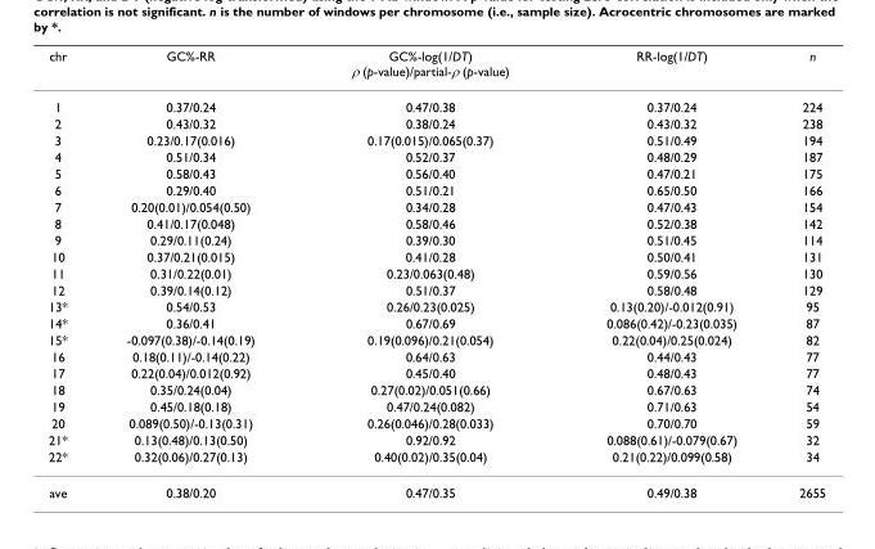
<table><thead><tr><td>chr</td><td>GC%-RR</td><td>GC%-log(1/DT) ρ (p-value)/partial-ρ (p-value)</td><td>RR-log(1/DT)</td><td>n</td></tr></thead><tbody><tr><td>1</td><td>0.37/0.24</td><td>0.47/0.38</td><td>0.37/0.24</td><td>224</td></tr><tr><td>2</td><td>0.43/0.32</td><td>0.38/0.24</td><td>0.43/0.32</td><td>238</td></tr><tr><td>3</td><td>0.23/0.17(0.016)</td><td>0.17(0.015)/0.065(0.37)</td><td>0.51/0.49</td><td>194</td></tr><tr><td>4</td><td>0.51/0.34</td><td>0.52/0.37</td><td>0.48/0.29</td><td>187</td></tr><tr><td>5</td><td>0.58/0.43</td><td>0.56/0.40</td><td>0.47/0.21</td><td>175</td></tr><tr><td>6</td><td>0.29/0.40</td><td>0.51/0.21</td><td>0.65/0.50</td><td>166</td></tr><tr><td>7</td><td>0.20(0.01)/0.054(0.50)</td><td>0.34/0.28</td><td>0.47/0.43</td><td>154</td></tr><tr><td>8</td><td>0.41/0.17(0.048)</td><td>0.58/0.46</td><td>0.52/0.38</td><td>142</td></tr><tr><td>9</td><td>0.29/0.11(0.24)</td><td>0.39/0.30</td><td>0.51/0.45</td><td>114</td></tr><tr><td>10</td><td>0.37/0.21(0.015)</td><td>0.41/0.28</td><td>0.50/0.41</td><td>131</td></tr><tr><td>11</td><td>0.31/0.22(0.01)</td><td>0.23/0.063(0.48)</td><td>0.59/0.56</td><td>130</td></tr><tr><td>12</td><td>0.39/0.14(0.12)</td><td>0.51/0.37</td><td>0.58/0.48</td><td>129</td></tr><tr><td>13*</td><td>0.54/0.53</td><td>0.26/0.23(0.025)</td><td>0.13(0.20)/-0.012(0.91)</td><td>95</td></tr><tr><td>14*</td><td>0.36/0.41</td><td>0.67/0.69</td><td>0.086(0.42)/-0.23(0.035)</td><td>87</td></tr><tr><td>15*</td><td>-0.097(0.38)/-0.14(0.19)</td><td>0.19(0.096)/0.21(0.054)</td><td>0.22(0.04)/0.25(0.024)</td><td>82</td></tr><tr><td>16</td><td>0.18(0.11)/-0.14(0.22)</td><td>0.64/0.63</td><td>0.44/0.43</td><td>77</td></tr><tr><td>17</td><td>0.22(0.04)/0.012(0.92)</td><td>0.45/0.40</td><td>0.48/0.43</td><td>77</td></tr><tr><td>18</td><td>0.35/0.24(0.04)</td><td>0.27(0.02)/0.051(0.66)</td><td>0.67/0.63</td><td>74</td></tr><tr><td>19</td><td>0.45/0.18(0.18)</td><td>0.47/0.24(0.082)</td><td>0.71/0.63</td><td>54</td></tr><tr><td>20</td><td>0.089(0.50)/-0.13(0.31)</td><td>0.26(0.046)/0.28(0.033)</td><td>0.70/0.70</td><td>59</td></tr><tr><td>21*</td><td>0.13(0.48)/0.13(0.50)</td><td>0.92/0.92</td><td>0.088(0.61)/-0.079(0.67)</td><td>32</td></tr><tr><td>22*</td><td>0.32(0.06)/0.27(0.13)</td><td>0.40(0.02)/0.35(0.04)</td><td>0.21(0.22)/0.099(0.58)</td><td>34</td></tr><tr><td>ave</td><td>0.38/0.20</td><td>0.47/0.35</td><td>0.49/0.38</td><td>2655</td></tr></tbody></table>